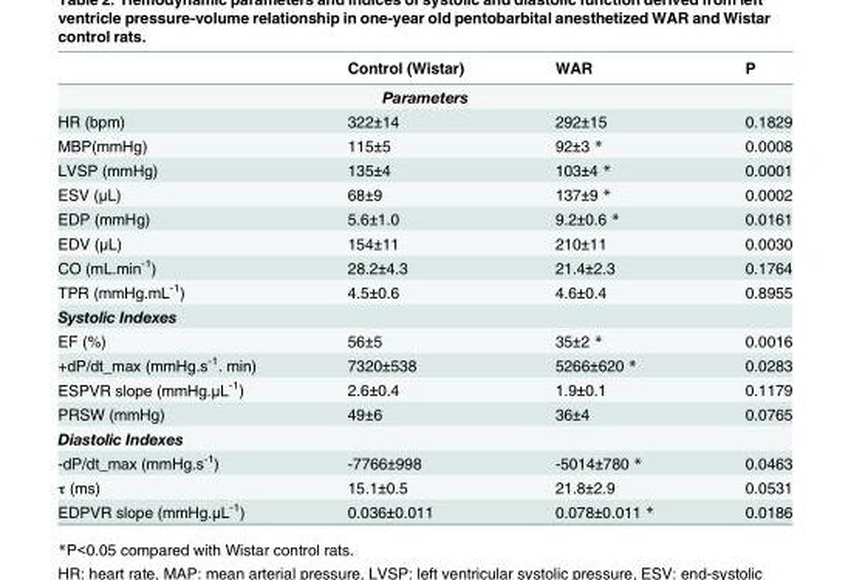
<table><thead><tr><td></td><td>Control (Wistar)</td><td>WAR</td><td>P</td></tr></thead><tbody><tr><td colspan="4">Parameters</td></tr><tr><td>HR (bpm)</td><td>322±14</td><td>292±15</td><td>0.1829</td></tr><tr><td>MBP(mmHg)</td><td>115±5</td><td>92±3 *</td><td>0.0008</td></tr><tr><td>LVSP (mmHg)</td><td>135±4</td><td>103±4 *</td><td>0.0001</td></tr><tr><td>ESV (μL)</td><td>68±9</td><td>137±9 *</td><td>0.0002</td></tr><tr><td>EDP (mmHg)</td><td>5.6±1.0</td><td>9.2±0.6 *</td><td>0.0161</td></tr><tr><td>EDV (μL)</td><td>154±11</td><td>210±11</td><td>0.0030</td></tr><tr><td>CO (mL.min<sup>-1</sup>)</td><td>28.2±4.3</td><td>21.4±2.3</td><td>0.1764</td></tr><tr><td>TPR (mmHg.mL<sup>-1</sup>)</td><td>4.5±0.6</td><td>4.6±0.4</td><td>0.8955</td></tr><tr><td colspan="4">Systolic Indexes</td></tr><tr><td>EF (%)</td><td>56±5</td><td>35±2 *</td><td>0.0016</td></tr><tr><td>+dP/dt_max (mmHg.s<sup>-1</sup>. min)</td><td>7320±538</td><td>5266±620 *</td><td>0.0283</td></tr><tr><td>ESPVR slope (mmHg.μL<sup>-1</sup>)</td><td>2.6±0.4</td><td>1.9±0.1</td><td>0.1179</td></tr><tr><td>PRSW (mmHg)</td><td>49±6</td><td>36±4</td><td>0.0765</td></tr><tr><td colspan="4">Diastolic Indexes</td></tr><tr><td>-dP/dt_max (mmHg.s<sup>-1</sup>)</td><td>-7766±998</td><td>-5014±780 *</td><td>0.0463</td></tr><tr><td>τ (ms)</td><td>15.1±0.5</td><td>21.8±2.9</td><td>0.0531</td></tr><tr><td>EDPVR slope (mmHg.μL<sup>-1</sup>)</td><td>0.036±0.011</td><td>0.078±0.011 *</td><td>0.0186</td></tr></tbody></table>